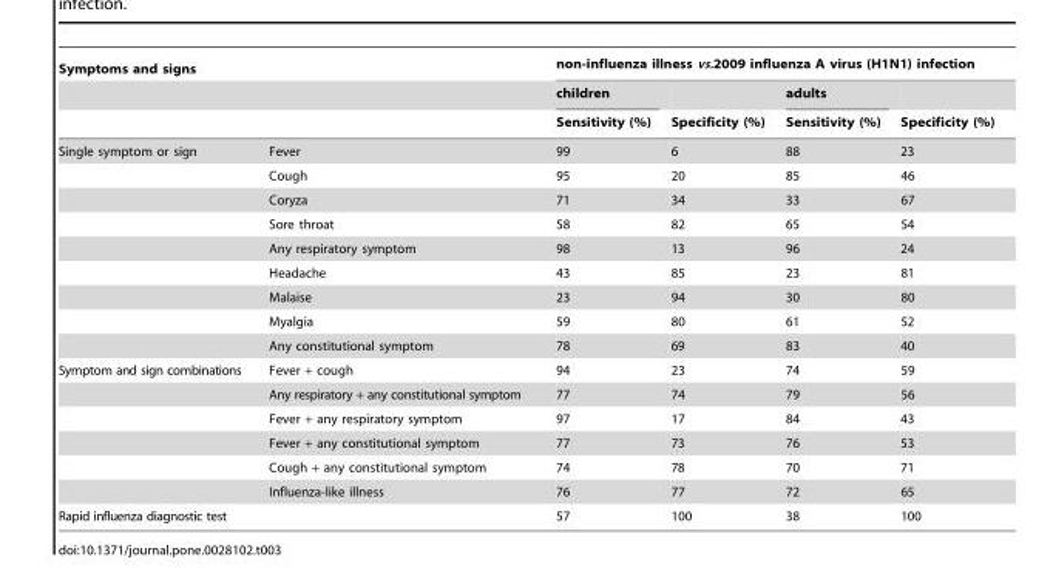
<table><thead><tr><td colspan="2">Symptoms and signs</td><td colspan="4">non-influenza illness vs.2009 influenza A virus (H1N1) infection</td></tr><tr><td rowspan="2"></td><td rowspan="2"></td><td rowspan="2">children Sensitivity (%)</td><td rowspan="2">Specificity (%)</td><td rowspan="2">adults Sensitivity (%)</td><td rowspan="2">Specificity (%)</td></tr><tr></tr></thead><tbody><tr><td rowspan="9">Single symptom or sign</td><td>Fever</td><td>99</td><td>6</td><td>88</td><td>23</td></tr><tr><td>Cough</td><td>95</td><td>20</td><td>85</td><td>46</td></tr><tr><td>Coryza</td><td>71</td><td>34</td><td>33</td><td>67</td></tr><tr><td>Sore throat</td><td>58</td><td>82</td><td>65</td><td>54</td></tr><tr><td>Any respiratory symptom</td><td>98</td><td>13</td><td>96</td><td>24</td></tr><tr><td>Headache</td><td>43</td><td>85</td><td>23</td><td>81</td></tr><tr><td>Malaise</td><td>23</td><td>94</td><td>30</td><td>80</td></tr><tr><td>Myalgia</td><td>59</td><td>80</td><td>61</td><td>52</td></tr><tr><td>Any constitutional symptom</td><td>78</td><td>69</td><td>83</td><td>40</td></tr><tr><td rowspan="6">Symptom and sign combinations</td><td>Fever + cough</td><td>94</td><td>23</td><td>74</td><td>59</td></tr><tr><td>Any respiratory + any constitutional symptom</td><td>77</td><td>74</td><td>79</td><td>56</td></tr><tr><td>Fever + any respiratory symptom</td><td>97</td><td>17</td><td>84</td><td>43</td></tr><tr><td>Fever + any constitutional symptom</td><td>77</td><td>73</td><td>76</td><td>53</td></tr><tr><td>Cough + any constitutional symptom</td><td>74</td><td>78</td><td>70</td><td>71</td></tr><tr><td>Influenza-like illness</td><td>76</td><td>77</td><td>72</td><td>65</td></tr><tr><td>Rapid influenza diagnostic test</td><td></td><td>57</td><td>100</td><td>38</td><td>100</td></tr></tbody></table>